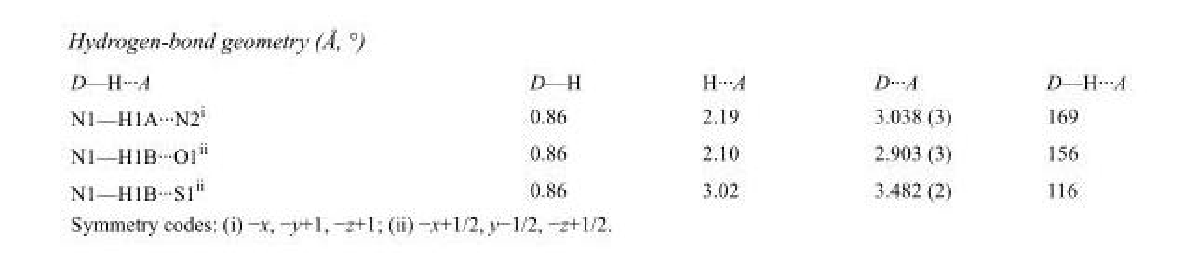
<table><tbody><tr><td>D—H···A</td><td>D—H</td><td>H···A</td><td>D···A</td><td>D—H···A</td></tr><tr><td>N1—H1A···N2<sup>i</sup></td><td>0.86</td><td>2.19</td><td>3.038 (3)</td><td>169</td></tr><tr><td>N1—H1B···O1<sup>ii</sup></td><td>0.86</td><td>2.10</td><td>2.903 (3)</td><td>156</td></tr><tr><td>N1—H1B···S1<sup>ii</sup></td><td>0.86</td><td>3.02</td><td>3.482 (2)</td><td>116</td></tr></tbody></table>